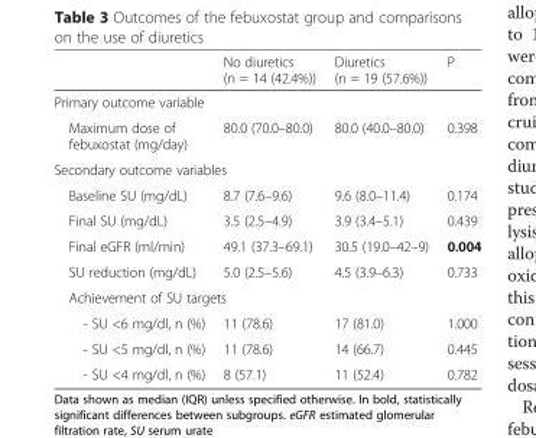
<table><thead><tr><td></td><td>No diuretics (n = 14 (42.4%))</td><td>Diuretics (n = 19 (57.6%))</td><td>P</td></tr></thead><tbody><tr><td colspan="4">Primary outcome variable</td></tr><tr><td>Maximum dose of febuxostat (mg/day)</td><td>80.0 (70.0–80.0)</td><td>80.0 (40.0–80.0)</td><td>0.398</td></tr><tr><td colspan="4">Secondary outcome variables</td></tr><tr><td>Baseline SU (mg/dL)</td><td>8.7 (7.6–9.6)</td><td>9.6 (8.0–11.4)</td><td>0.174</td></tr><tr><td>Final SU (mg/dL)</td><td>3.5 (2.5–4.9)</td><td>3.9 (3.4–5.1)</td><td>0.439</td></tr><tr><td>Final eGFR (ml/min)</td><td>49.1 (37.3–69.1)</td><td>30.5 (19.0–42–9)</td><td>0.004</td></tr><tr><td>SU reduction (mg/dL)</td><td>5.0 (2.5–5.6)</td><td>4.5 (3.9–6.3)</td><td>0.733</td></tr><tr><td colspan="4">Achievement of SU targets</td></tr><tr><td>- SU &lt;6 mg/dl, n (%)</td><td>11 (78.6)</td><td>17 (81.0)</td><td>1.000</td></tr><tr><td>- SU &lt;5 mg/dl, n (%)</td><td>11 (78.6)</td><td>14 (66.7)</td><td>0.445</td></tr><tr><td>- SU &lt;4 mg/dl, n (%)</td><td>8 (57.1)</td><td>11 (52.4)</td><td>0.782</td></tr></tbody></table>